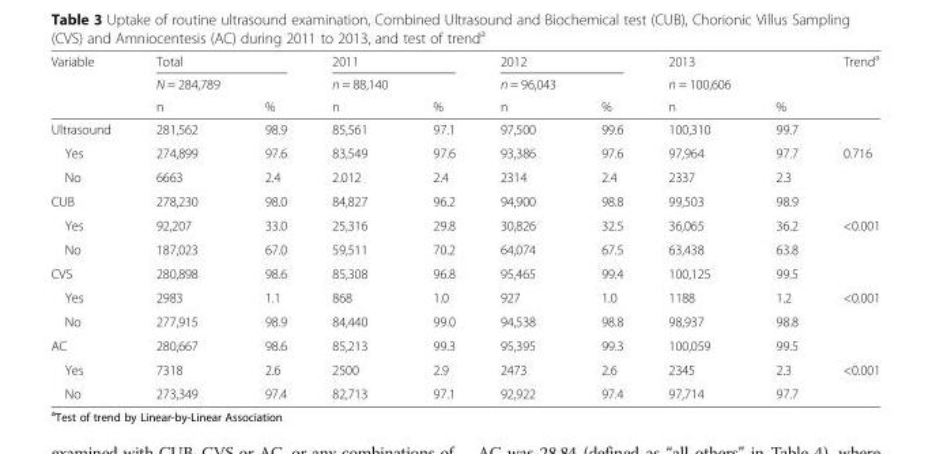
<table><thead><tr><td rowspan="3">Variable</td><td colspan="2">Total</td><td colspan="2">2011</td><td colspan="2">2012</td><td rowspan="3">2013 n = 100,606 n</td><td rowspan="3">%</td><td rowspan="3">Trend<sup>a</sup></td></tr><tr><td rowspan="2">N = 284,789 n</td><td rowspan="2">%</td><td rowspan="2">n = 88,140 n</td><td rowspan="2">%</td><td rowspan="2">n = 96,043 n</td><td rowspan="2">%</td></tr><tr></tr></thead><tbody><tr><td>Ultrasound</td><td>281,562</td><td>98.9</td><td>85,561</td><td>97.1</td><td>97,500</td><td>99.6</td><td>100,310</td><td>99.7</td><td></td></tr><tr><td>Yes</td><td>274,899</td><td>97.6</td><td>83,549</td><td>97.6</td><td>93,386</td><td>97.6</td><td>97,964</td><td>97.7</td><td>0.716</td></tr><tr><td>No</td><td>6663</td><td>2.4</td><td>2.012</td><td>2.4</td><td>2314</td><td>2.4</td><td>2337</td><td>2.3</td><td></td></tr><tr><td>CUB</td><td>278,230</td><td>98.0</td><td>84,827</td><td>96.2</td><td>94,900</td><td>98.8</td><td>99,503</td><td>98.9</td><td></td></tr><tr><td>Yes</td><td>92,207</td><td>33.0</td><td>25,316</td><td>29.8</td><td>30,826</td><td>32.5</td><td>36,065</td><td>36.2</td><td>&lt;0.001</td></tr><tr><td>No</td><td>187,023</td><td>67.0</td><td>59,511</td><td>70.2</td><td>64,074</td><td>67.5</td><td>63,438</td><td>63.8</td><td></td></tr><tr><td>CVS</td><td>280,898</td><td>98.6</td><td>85,308</td><td>96.8</td><td>95,465</td><td>99.4</td><td>100,125</td><td>99.5</td><td></td></tr><tr><td>Yes</td><td>2983</td><td>1.1</td><td>868</td><td>1.0</td><td>927</td><td>1.0</td><td>1188</td><td>1.2</td><td>&lt;0.001</td></tr><tr><td>No</td><td>277,915</td><td>98.9</td><td>84,440</td><td>99.0</td><td>94,538</td><td>98.8</td><td>98,937</td><td>98.8</td><td></td></tr><tr><td>AC</td><td>280,667</td><td>98.6</td><td>85,213</td><td>99.3</td><td>95,395</td><td>99.3</td><td>100,059</td><td>99.5</td><td></td></tr><tr><td>Yes</td><td>7318</td><td>2.6</td><td>2500</td><td>2.9</td><td>2473</td><td>2.6</td><td>2345</td><td>2.3</td><td>&lt;0.001</td></tr><tr><td>No</td><td>273,349</td><td>97.4</td><td>82,713</td><td>97.1</td><td>92,922</td><td>97.4</td><td>97,714</td><td>97.7</td><td></td></tr></tbody></table>